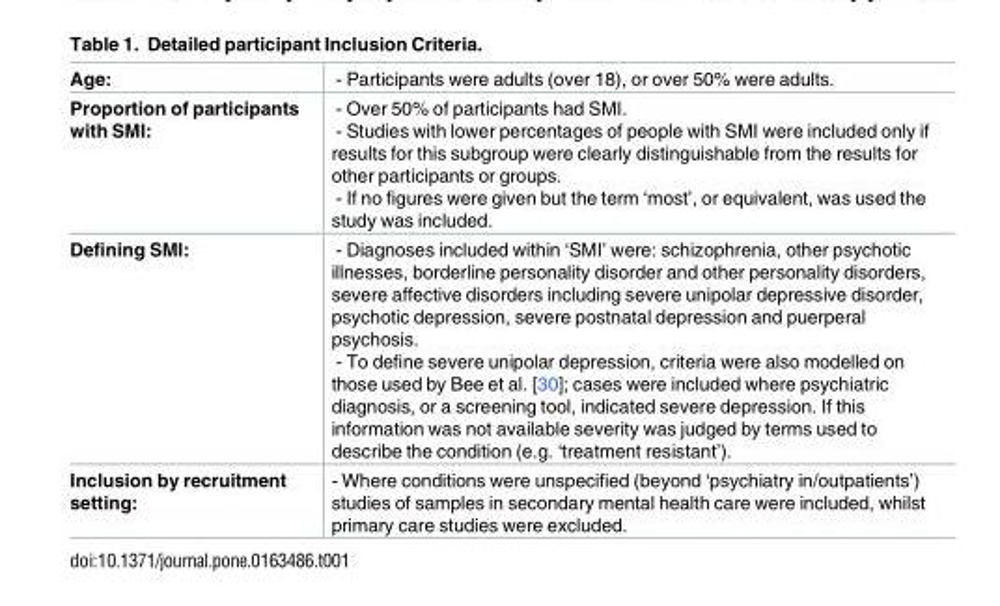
<table><tbody><tr><td>Age:</td><td>- Participants were adults (over 18), or over 50% were adults.</td></tr><tr><td>Proportion of participants with SMI:</td><td>- Over 50% of participants had SMI. - Studies with lower percentages of people with SMI were included only if results for this subgroup were clearly distinguishable from the results for other participants or groups. - If no figures were given but the term ‘most’, or equivalent, was used the study was included.</td></tr><tr><td>Defining SMI:</td><td>- Diagnoses included within ‘SMI’ were: schizophrenia, other psychotic illnesses, borderline personality disorder and other personality disorders, severe affective disorders including severe unipolar depressive disorder, psychotic depression, severe postnatal depression and puerperal psychosis. - To define severe unipolar depression, criteria were also modelled on those used by Bee et al. [30]; cases were included where psychiatric diagnosis, or a screening tool, indicated severe depression. If this information was not available severity was judged by terms used to describe the condition (e.g. ‘treatment resistant’).</td></tr><tr><td>Inclusion by recruitment setting:</td><td>- Where conditions were unspecified (beyond ‘psychiatry in/outpatients’) studies of samples in secondary mental health care were included, whilst primary care studies were excluded.</td></tr></tbody></table>